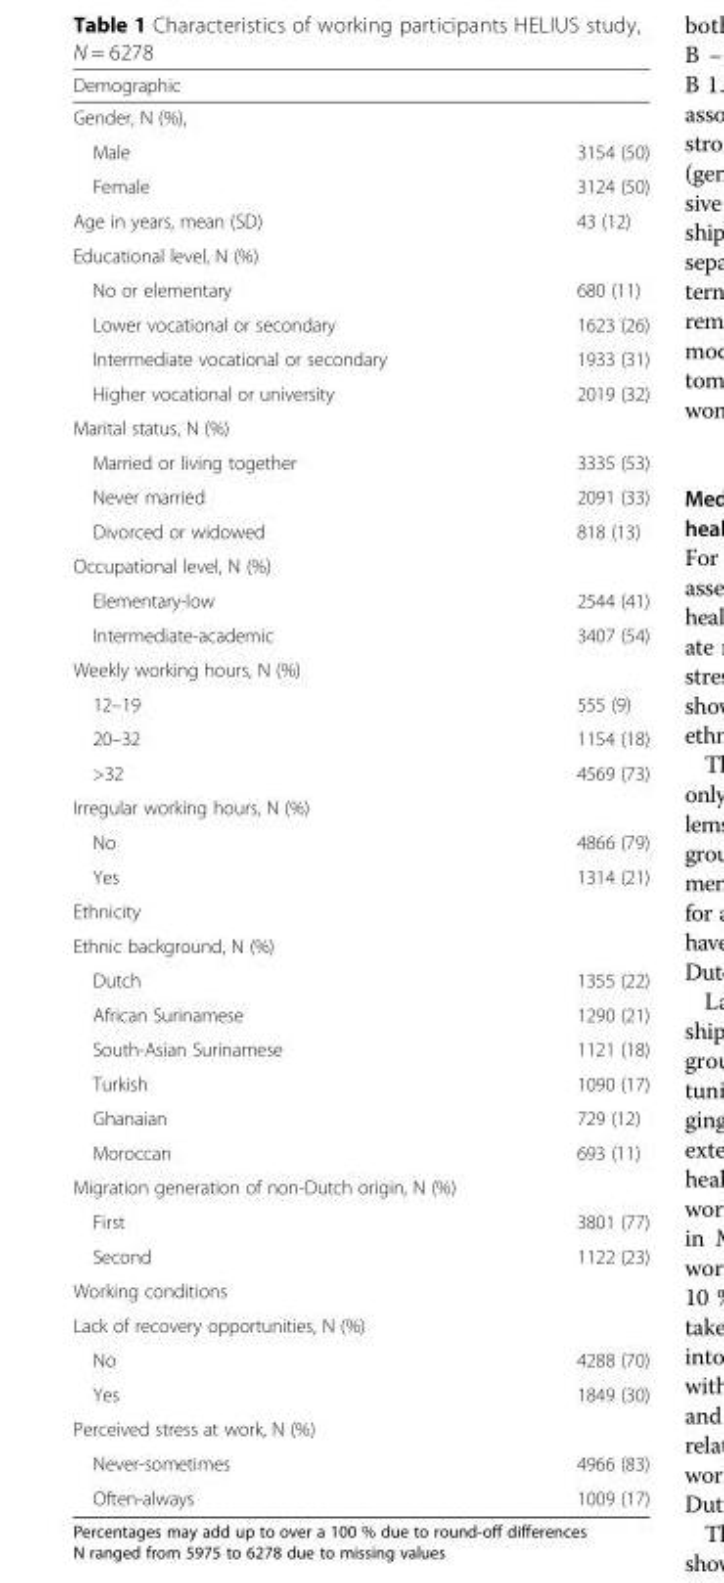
<table><thead><tr><td>Demographic</td><td></td></tr></thead><tbody><tr><td colspan="2">Gender, N (%),</td></tr><tr><td>Male</td><td>3154 (50)</td></tr><tr><td>Female</td><td>3124 (50)</td></tr><tr><td>Age in years, mean (SD)</td><td>43 (12)</td></tr><tr><td colspan="2">Educational level, N (%)</td></tr><tr><td>No or elementary</td><td>680 (11)</td></tr><tr><td>Lower vocational or secondary</td><td>1623 (26)</td></tr><tr><td>Intermediate vocational or secondary</td><td>1933 (31)</td></tr><tr><td>Higher vocational or university</td><td>2019 (32)</td></tr><tr><td colspan="2">Marital status, N (%)</td></tr><tr><td>Married or living together</td><td>3335 (53)</td></tr><tr><td>Never married</td><td>2091 (33)</td></tr><tr><td>Divorced or widowed</td><td>818 (13)</td></tr><tr><td colspan="2">Occupational level, N (%)</td></tr><tr><td>Elementary-low</td><td>2544 (41)</td></tr><tr><td>Intermediate-academic</td><td>3407 (54)</td></tr><tr><td colspan="2">Weekly working hours, N (%)</td></tr><tr><td>12–19</td><td>555 (9)</td></tr><tr><td>20–32</td><td>1154 (18)</td></tr><tr><td>&gt;32</td><td>4569 (73)</td></tr><tr><td colspan="2">Irregular working hours, N (%)</td></tr><tr><td>No</td><td>4866 (79)</td></tr><tr><td>Yes</td><td>1314 (21)</td></tr><tr><td colspan="2">Ethnicity</td></tr><tr><td colspan="2">Ethnic background, N (%)</td></tr><tr><td>Dutch</td><td>1355 (22)</td></tr><tr><td>African Surinamese</td><td>1290 (21)</td></tr><tr><td>South-Asian Surinamese</td><td>1121 (18)</td></tr><tr><td>Turkish</td><td>1090 (17)</td></tr><tr><td>Ghanaian</td><td>729 (12)</td></tr><tr><td>Moroccan</td><td>693 (11)</td></tr><tr><td colspan="2">Migration generation of non-Dutch origin, N (%)</td></tr><tr><td>First</td><td>3801 (77)</td></tr><tr><td>Second</td><td>1122 (23)</td></tr><tr><td colspan="2">Working conditions</td></tr><tr><td colspan="2">Lack of recovery opportunities, N (%)</td></tr><tr><td>No</td><td>4288 (70)</td></tr><tr><td>Yes</td><td>1849 (30)</td></tr><tr><td colspan="2">Perceived stress at work, N (%)</td></tr><tr><td>Never-sometimes</td><td>4966 (83)</td></tr><tr><td>Often-always</td><td>1009 (17)</td></tr></tbody></table>